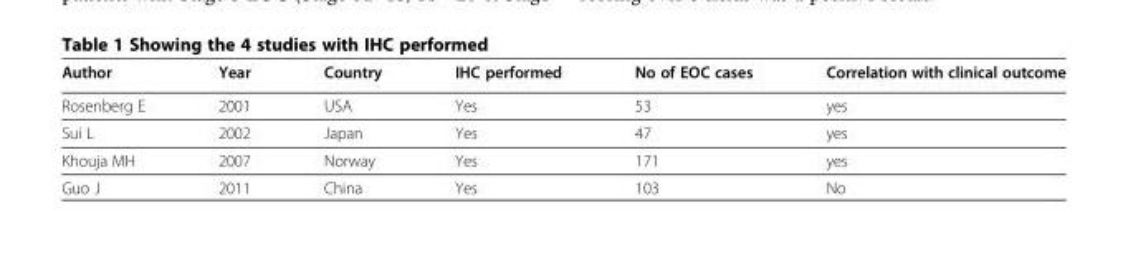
<table><thead><tr><td>Author</td><td>Year</td><td>Country</td><td>IHC performed</td><td>No of EOC cases</td><td>Correlation with clinical outcome</td></tr></thead><tbody><tr><td>Rosenberg E</td><td>2001</td><td>USA</td><td>Yes</td><td>53</td><td>yes</td></tr><tr><td>Sui L</td><td>2002</td><td>Japan</td><td>Yes</td><td>47</td><td>yes</td></tr><tr><td>Khouja MH</td><td>2007</td><td>Norway</td><td>Yes</td><td>171</td><td>yes</td></tr><tr><td>Guo J</td><td>2011</td><td>China</td><td>Yes</td><td>103</td><td>No</td></tr></tbody></table>